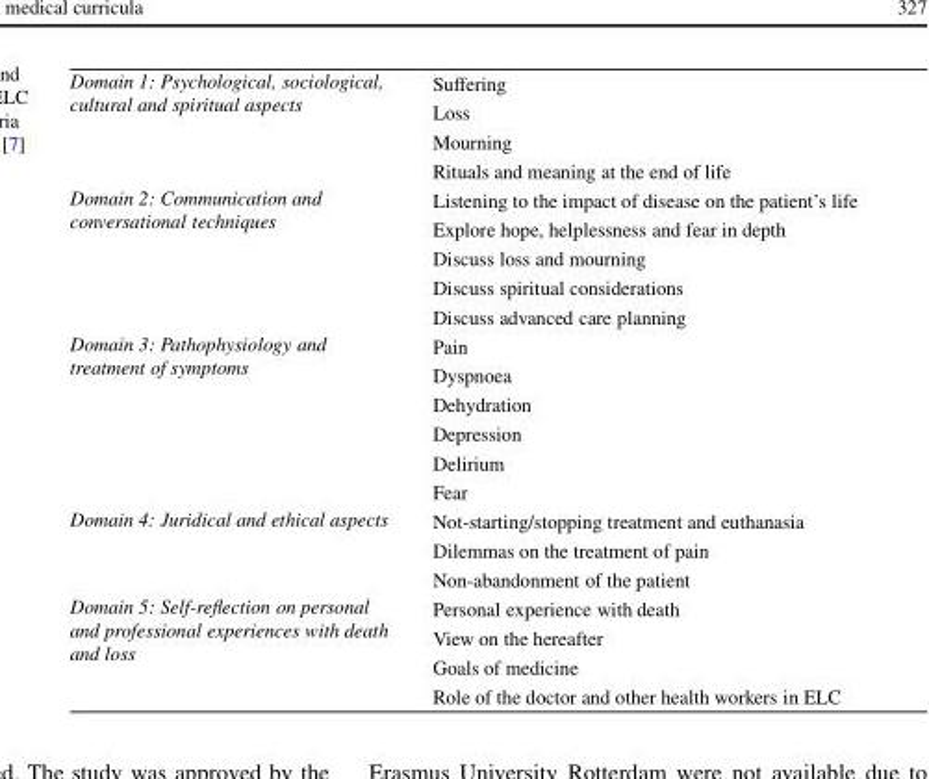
<table><tbody><tr><td rowspan="4">Domain 1: Psychological, sociological, cultural and spiritual aspects</td><td>Suffering</td></tr><tr><td>Loss</td></tr><tr><td>Mourning</td></tr><tr><td>Rituals and meaning at the end of life</td></tr><tr><td rowspan="5">Domain 2: Communication and conversational techniques</td><td>Listening to the impact of disease on the patient’s life</td></tr><tr><td>Explore hope, helplessness and fear in depth</td></tr><tr><td>Discuss loss and mourning</td></tr><tr><td>Discuss spiritual considerations</td></tr><tr><td>Discuss advanced care planning</td></tr><tr><td rowspan="6">Domain 3: Pathophysiology and treatment of symptoms</td><td>Pain</td></tr><tr><td>Dyspnoea</td></tr><tr><td>Dehydration</td></tr><tr><td>Depression</td></tr><tr><td>Delirium</td></tr><tr><td>Fear</td></tr><tr><td rowspan="3">Domain 4: Juridical and ethical aspects</td><td>Not-starting/stopping treatment and euthanasia</td></tr><tr><td>Dilemmas on the treatment of pain</td></tr><tr><td>Non-abandonment of the patient</td></tr><tr><td rowspan="4">Domain 5: Self-reflection on personal and professional experiences with death and loss</td><td>Personal experience with death</td></tr><tr><td>View on the hereafter</td></tr><tr><td>Goals of medicine</td></tr><tr><td>Role of the doctor and other health workers in ELC</td></tr></tbody></table>